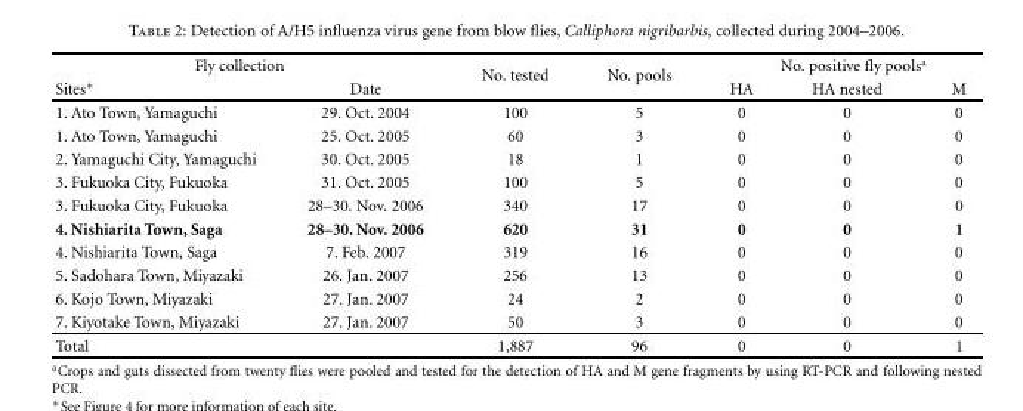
<table><thead><tr><td colspan="2">Fly collection</td><td rowspan="2">No. tested</td><td rowspan="2">No. pools</td><td colspan="3">No. positive fly pools<sup>a</sup></td></tr><tr><td>Sites∗</td><td>Date</td><td>HA</td><td>HA nested</td><td>M</td></tr></thead><tbody><tr><td>1. Ato Town, Yamaguchi</td><td>29. Oct. 2004</td><td>100</td><td>5</td><td>0</td><td>0</td><td>0</td></tr><tr><td>1. Ato Town, Yamaguchi</td><td>25. Oct. 2005</td><td>60</td><td>3</td><td>0</td><td>0</td><td>0</td></tr><tr><td>2. Yamaguchi City, Yamaguchi</td><td>30. Oct. 2005</td><td>18</td><td>1</td><td>0</td><td>0</td><td>0</td></tr><tr><td>3. Fukuoka City, Fukuoka</td><td>31. Oct. 2005</td><td>100</td><td>5</td><td>0</td><td>0</td><td>0</td></tr><tr><td>3. Fukuoka City, Fukuoka</td><td>28–30. Nov. 2006</td><td>340</td><td>17</td><td>0</td><td>0</td><td>0</td></tr><tr><td>4. Nishiarita Town, Saga</td><td>28–30. Nov. 2006</td><td>620</td><td>31</td><td>0</td><td>0</td><td>1</td></tr><tr><td>4. Nishiarita Town, Saga</td><td>7. Feb. 2007</td><td>319</td><td>16</td><td>0</td><td>0</td><td>0</td></tr><tr><td>5. Sadohara Town, Miyazaki</td><td>26. Jan. 2007</td><td>256</td><td>13</td><td>0</td><td>0</td><td>0</td></tr><tr><td>6. Kojo Town, Miyazaki</td><td>27. Jan. 2007</td><td>24</td><td>2</td><td>0</td><td>0</td><td>0</td></tr><tr><td>7. Kiyotake Town, Miyazaki</td><td>27. Jan. 2007</td><td>50</td><td>3</td><td>0</td><td>0</td><td>0</td></tr><tr><td>Total</td><td></td><td>1,887</td><td>96</td><td>0</td><td>0</td><td>1</td></tr></tbody></table>